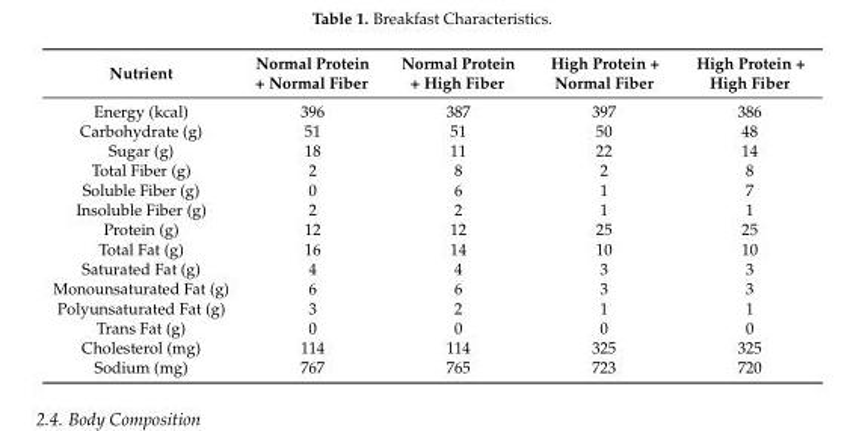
<table><thead><tr><td>Nutrient</td><td>Normal Protein + Normal Fiber</td><td>Normal Protein + High Fiber</td><td>High Protein + Normal Fiber</td><td>High Protein + High Fiber</td></tr></thead><tbody><tr><td>Energy (kcal)</td><td>396</td><td>387</td><td>397</td><td>386</td></tr><tr><td>Carbohydrate (g)</td><td>51</td><td>51</td><td>50</td><td>48</td></tr><tr><td>Sugar (g)</td><td>18</td><td>11</td><td>22</td><td>14</td></tr><tr><td>Total Fiber (g)</td><td>2</td><td>8</td><td>2</td><td>8</td></tr><tr><td>Soluble Fiber (g)</td><td>0</td><td>6</td><td>1</td><td>7</td></tr><tr><td>Insoluble Fiber (g)</td><td>2</td><td>2</td><td>1</td><td>1</td></tr><tr><td>Protein (g)</td><td>12</td><td>12</td><td>25</td><td>25</td></tr><tr><td>Total Fat (g)</td><td>16</td><td>14</td><td>10</td><td>10</td></tr><tr><td>Saturated Fat (g)</td><td>4</td><td>4</td><td>3</td><td>3</td></tr><tr><td>Monounsaturated Fat (g)</td><td>6</td><td>6</td><td>3</td><td>3</td></tr><tr><td>Polyunsaturated Fat (g)</td><td>3</td><td>2</td><td>1</td><td>1</td></tr><tr><td>Trans Fat (g)</td><td>0</td><td>0</td><td>0</td><td>0</td></tr><tr><td>Cholesterol (mg)</td><td>114</td><td>114</td><td>325</td><td>325</td></tr><tr><td>Sodium (mg)</td><td>767</td><td>765</td><td>723</td><td>720</td></tr></tbody></table>